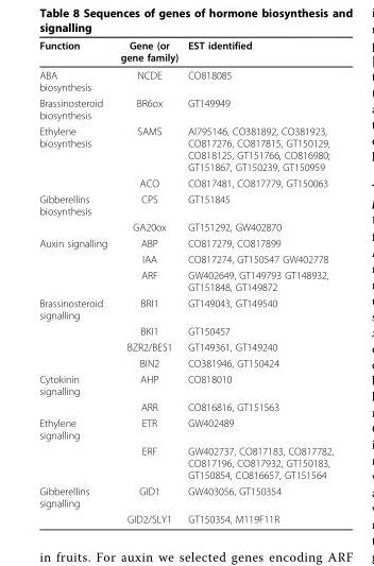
<table><thead><tr><td>Function</td><td>Gene (or gene family)</td><td>EST identified</td></tr></thead><tbody><tr><td>ABA biosynthesis</td><td>NCDE</td><td>CO818085</td></tr><tr><td>Brassinosteroid biosynthesis</td><td>BR6ox</td><td>GT149949</td></tr><tr><td rowspan="2">Ethylene biosynthesis</td><td>SAMS</td><td>AI795146, CO381892, CO381923, CO817276, CO817815, GT150129, CO818125, GT151766, CO816980; GT151867, GT150239, GT150959</td></tr><tr><td>ACO</td><td>CO817481, CO817779, GT150063</td></tr><tr><td rowspan="2">Gibberellins biosynthesis</td><td>CPS</td><td>GT151845</td></tr><tr><td>GA20ox</td><td>GT151292, GW402870</td></tr><tr><td rowspan="3">Auxin signalling</td><td>ABP</td><td>CO817279, CO817899</td></tr><tr><td>IAA</td><td>CO817274, GT150547 GW402778</td></tr><tr><td>ARF</td><td>GW402649, GT149793 GT148932, GT151848, GT149872</td></tr><tr><td rowspan="4">Brassinosteroid signalling</td><td>BRI1</td><td>GT149043, GT149540</td></tr><tr><td>BKI1</td><td>GT150457</td></tr><tr><td>BZR2/BES1</td><td>GT149361, GT149240</td></tr><tr><td>BIN2</td><td>CO381946, GT150424</td></tr><tr><td rowspan="2">Cytokinin signalling</td><td>AHP</td><td>CO818010</td></tr><tr><td>ARR</td><td>CO816816, GT151563</td></tr><tr><td rowspan="2">Ethylene signalling</td><td>ETR</td><td>GW402489</td></tr><tr><td>ERF</td><td>GW402737, CO817183, CO817782, CO817196, CO817932, GT150183, GT150854, CO816657, GT151564</td></tr><tr><td rowspan="2">Gibberellins signalling</td><td>GID1</td><td>GW403056, GT150354</td></tr><tr><td>GID2/SLY1</td><td>GT150354, M119F11R</td></tr></tbody></table>